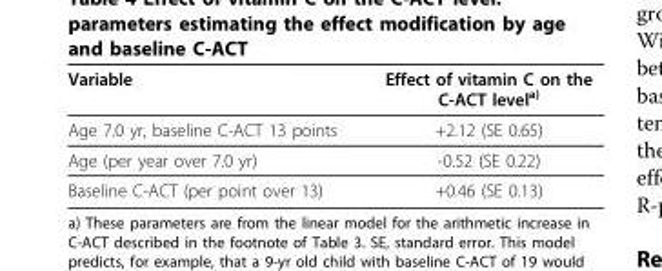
<table><thead><tr><td>Variable</td><td>Effect of vitamin C on the C-ACT levela)</td></tr></thead><tbody><tr><td>Age 7.0 yr, baseline C-ACT 13 points</td><td>+2.12 (SE 0.65)</td></tr><tr><td>Age (per year over 7.0 yr)</td><td>-0.52 (SE 0.22)</td></tr><tr><td>Baseline C-ACT (per point over 13)</td><td>+0.46 (SE 0.13)</td></tr></tbody></table>